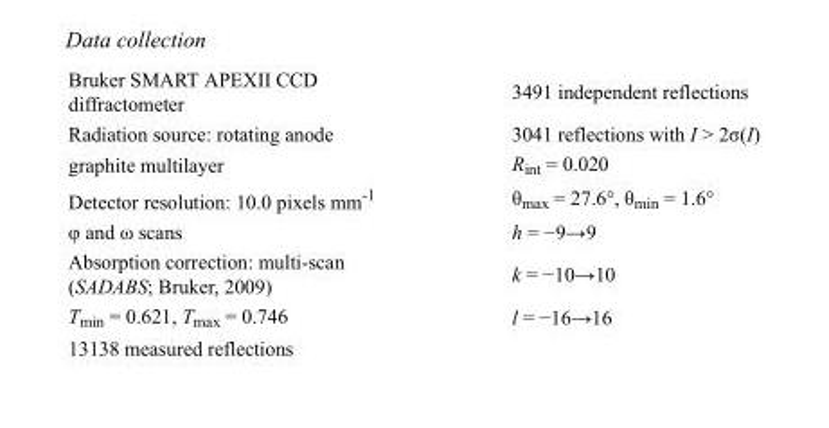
<table><tbody><tr><td>Bruker SMART APEXII CCD diffractometer</td><td>3491 independent reflections</td></tr><tr><td>Radiation source: rotating anode</td><td>3041 reflections with I &gt; 2σ(I)</td></tr><tr><td>graphite multilayer</td><td>R<sub>int</sub> = 0.020</td></tr><tr><td>Detector resolution: 10.0 pixels mm<sup>-1</sup></td><td>θ<sub>max</sub> = 27.6°, θ<sub>min</sub> = 1.6°</td></tr><tr><td>φ and ω scans</td><td>h = −9→9</td></tr><tr><td>Absorption correction: multi-scan (SADABS; Bruker, 2009)</td><td>k = −10→10</td></tr><tr><td>T<sub>min</sub> = 0.621, T<sub>max</sub> = 0.746</td><td>l = −16→16</td></tr><tr><td>13138 measured reflections</td><td></td></tr></tbody></table>